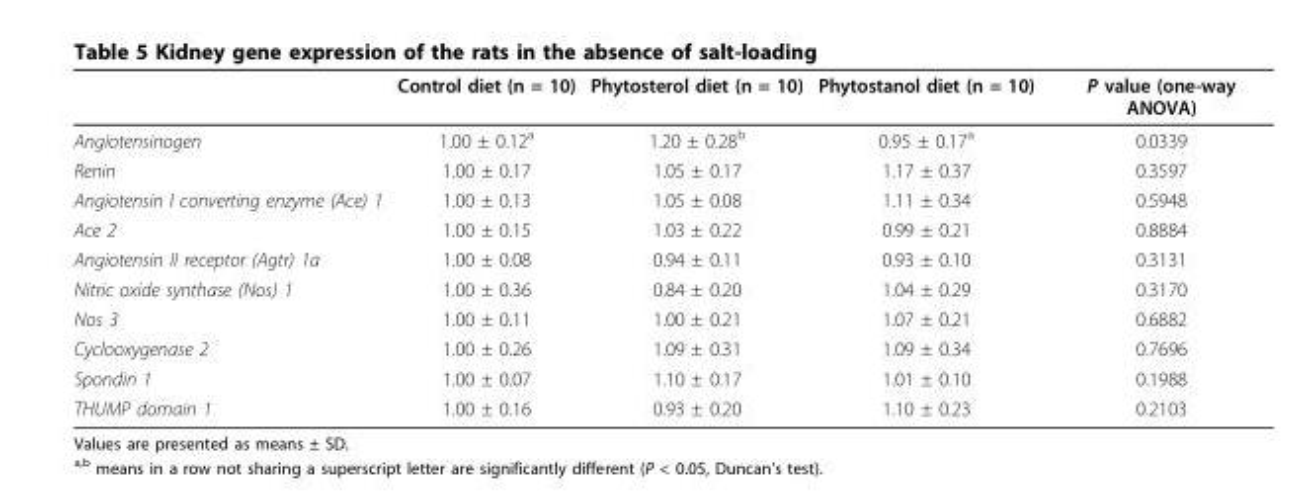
<table><thead><tr><td></td><td>Control diet (n = 10)</td><td>Phytosterol diet (n = 10)</td><td>Phytostanol diet (n = 10)</td><td>P value (one-way ANOVA)</td></tr></thead><tbody><tr><td>Angiotensinogen</td><td>1.00 ± 0.12<sup>a</sup></td><td>1.20 ± 0.28<sup>b</sup></td><td>0.95 ± 0.17<sup>a</sup></td><td>0.0339</td></tr><tr><td>Renin</td><td>1.00 ± 0.17</td><td>1.05 ± 0.17</td><td>1.17 ± 0.37</td><td>0.3597</td></tr><tr><td>Angiotensin I converting enzyme (Ace) 1</td><td>1.00 ± 0.13</td><td>1.05 ± 0.08</td><td>1.11 ± 0.34</td><td>0.5948</td></tr><tr><td>Ace 2</td><td>1.00 ± 0.15</td><td>1.03 ± 0.22</td><td>0.99 ± 0.21</td><td>0.8884</td></tr><tr><td>Angiotensin II receptor (Agtr) 1a</td><td>1.00 ± 0.08</td><td>0.94 ± 0.11</td><td>0.93 ± 0.10</td><td>0.3131</td></tr><tr><td>Nitric oxide synthase (Nos) 1</td><td>1.00 ± 0.36</td><td>0.84 ± 0.20</td><td>1.04 ± 0.29</td><td>0.3170</td></tr><tr><td>Nos 3</td><td>1.00 ± 0.11</td><td>1.00 ± 0.21</td><td>1.07 ± 0.21</td><td>0.6882</td></tr><tr><td>Cyclooxygenase 2</td><td>1.00 ± 0.26</td><td>1.09 ± 0.31</td><td>1.09 ± 0.34</td><td>0.7696</td></tr><tr><td>Spondin 1</td><td>1.00 ± 0.07</td><td>1.10 ± 0.17</td><td>1.01 ± 0.10</td><td>0.1988</td></tr><tr><td>THUMP domain 1</td><td>1.00 ± 0.16</td><td>0.93 ± 0.20</td><td>1.10 ± 0.23</td><td>0.2103</td></tr></tbody></table>